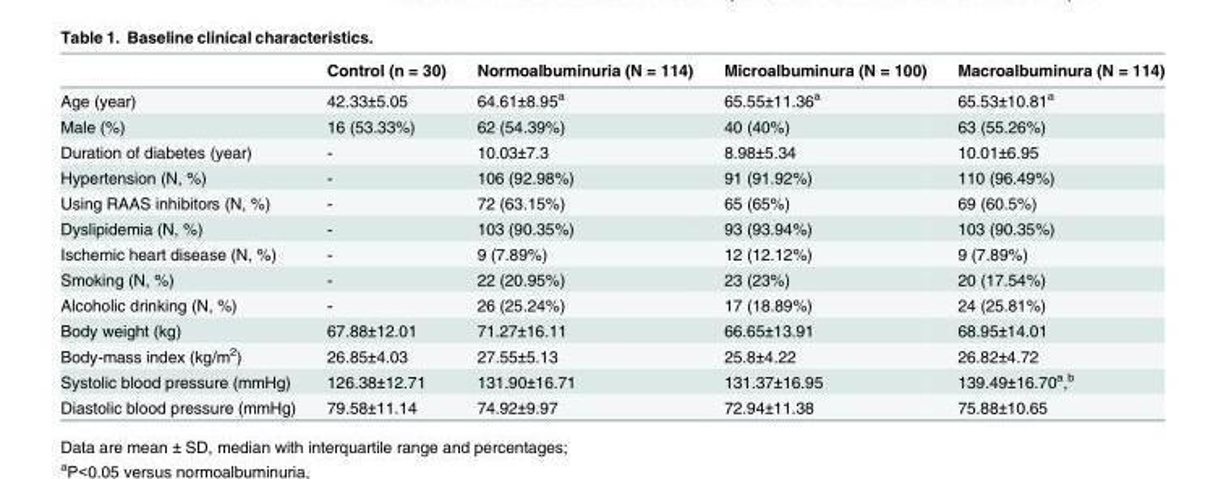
<table><thead><tr><td></td><td>Control (n = 30)</td><td>Normoalbuminuria (N = 114)</td><td>Microalbuminura (N = 100)</td><td>Macroalbuminura (N = 114)</td></tr></thead><tbody><tr><td>Age (year)</td><td>42.33±5.05</td><td>64.61±8.95<sup>a</sup></td><td>65.55±11.36<sup>a</sup></td><td>65.53±10.81<sup>a</sup></td></tr><tr><td>Male (%)</td><td>16 (53.33%)</td><td>62 (54.39%)</td><td>40 (40%)</td><td>63 (55.26%)</td></tr><tr><td>Duration of diabetes (year)</td><td>-</td><td>10.03±7.3</td><td>8.98±5.34</td><td>10.01±6.95</td></tr><tr><td>Hypertension (N, %)</td><td>-</td><td>106 (92.98%)</td><td>91 (91.92%)</td><td>110 (96.49%)</td></tr><tr><td>Using RAAS inhibitors (N, %)</td><td>-</td><td>72 (63.15%)</td><td>65 (65%)</td><td>69 (60.5%)</td></tr><tr><td>Dyslipidemia (N, %)</td><td>-</td><td>103 (90.35%)</td><td>93 (93.94%)</td><td>103 (90.35%)</td></tr><tr><td>Ischemic heart disease (N, %)</td><td>-</td><td>9 (7.89%)</td><td>12 (12.12%)</td><td>9 (7.89%)</td></tr><tr><td>Smoking (N, %)</td><td>-</td><td>22 (20.95%)</td><td>23 (23%)</td><td>20 (17.54%)</td></tr><tr><td>Alcoholic drinking (N, %)</td><td>-</td><td>26 (25.24%)</td><td>17 (18.89%)</td><td>24 (25.81%)</td></tr><tr><td>Body weight (kg)</td><td>67.88±12.01</td><td>71.27±16.11</td><td>66.65±13.91</td><td>68.95±14.01</td></tr><tr><td>Body-mass index (kg/m<sup>2</sup>)</td><td>26.85±4.03</td><td>27.55±5.13</td><td>25.8±4.22</td><td>26.82±4.72</td></tr><tr><td>Systolic blood pressure (mmHg)</td><td>126.38±12.71</td><td>131.90±16.71</td><td>131.37±16.95</td><td>139.49±16.70<sup>a</sup>,<sup>b</sup></td></tr><tr><td>Diastolic blood pressure (mmHg)</td><td>79.58±11.14</td><td>74.92±9.97</td><td>72.94±11.38</td><td>75.88±10.65</td></tr></tbody></table>